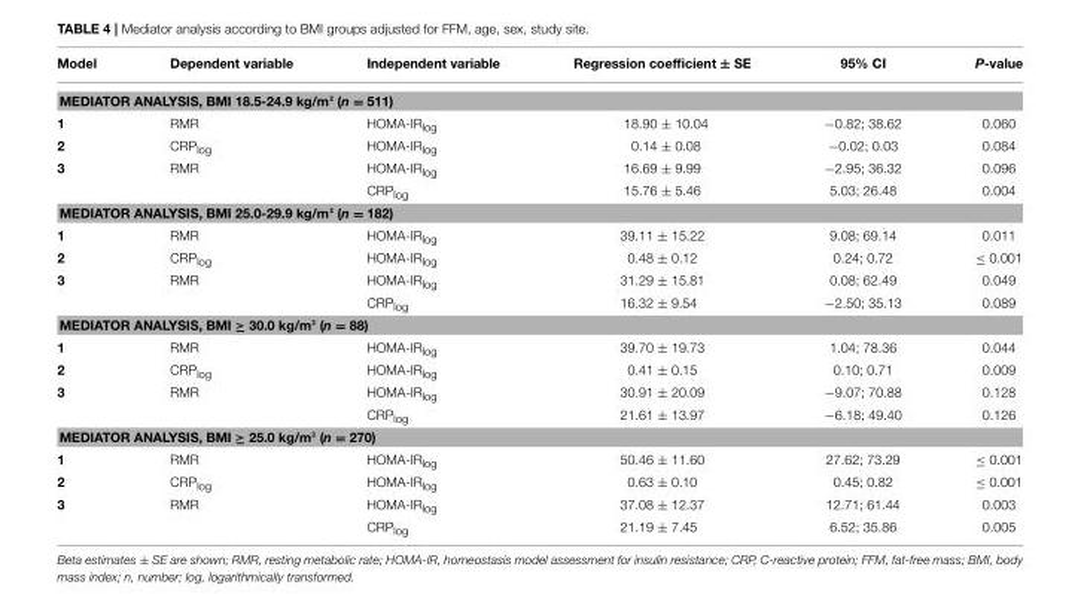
<table><thead><tr><td>Model</td><td>Dependent variable</td><td>Independent variable</td><td>Regression coefficient ± SE</td><td>95% CI</td><td>P-value</td></tr></thead><tbody><tr><td colspan="6">MEDIATOR ANALYSIS, BMI 18.5-24.9 kg/m² (n = 511)</td></tr><tr><td>1</td><td>RMR</td><td>HOMA-IR<sub>log</sub></td><td>18.90 ± 10.04</td><td>−0.82; 38.62</td><td>0.060</td></tr><tr><td>2</td><td>CRP<sub>log</sub></td><td>HOMA-IR<sub>log</sub></td><td>0.14 ± 0.08</td><td>−0.02; 0.03</td><td>0.084</td></tr><tr><td rowspan="2">3</td><td>RMR</td><td>HOMA-IR<sub>log</sub></td><td>16.69 ± 9.99</td><td>−2.95; 36.32</td><td>0.096</td></tr><tr><td></td><td>CRP<sub>log</sub></td><td>15.76 ± 5.46</td><td>5.03; 26.48</td><td>0.004</td></tr><tr><td colspan="6">MEDIATOR ANALYSIS, BMI 25.0-29.9 kg/m² (n = 182)</td></tr><tr><td>1</td><td>RMR</td><td>HOMA-IR<sub>log</sub></td><td>39.11 ± 15.22</td><td>9.08; 69.14</td><td>0.011</td></tr><tr><td>2</td><td>CRP<sub>log</sub></td><td>HOMA-IR<sub>log</sub></td><td>0.48 ± 0.12</td><td>0.24; 0.72</td><td>≤ 0.001</td></tr><tr><td rowspan="2">3</td><td>RMR</td><td>HOMA-IR<sub>log</sub></td><td>31.29 ± 15.81</td><td>0.08; 62.49</td><td>0.049</td></tr><tr><td></td><td>CRP<sub>log</sub></td><td>16.32 ± 9.54</td><td>−2.50; 35.13</td><td>0.089</td></tr><tr><td colspan="6">MEDIATOR ANALYSIS, BMI ≥ 30.0 kg/m² (n = 88)</td></tr><tr><td>1</td><td>RMR</td><td>HOMA-IR<sub>log</sub></td><td>39.70 ± 19.73</td><td>1.04; 78.36</td><td>0.044</td></tr><tr><td>2</td><td>CRP<sub>log</sub></td><td>HOMA-IR<sub>log</sub></td><td>0.41 ± 0.15</td><td>0.10; 0.71</td><td>0.009</td></tr><tr><td rowspan="2">3</td><td>RMR</td><td>HOMA-IR<sub>log</sub></td><td>30.91 ± 20.09</td><td>−9.07; 70.88</td><td>0.128</td></tr><tr><td></td><td>CRP<sub>log</sub></td><td>21.61 ± 13.97</td><td>−6.18; 49.40</td><td>0.126</td></tr><tr><td colspan="6">MEDIATOR ANALYSIS, BMI ≥ 25.0 kg/m² (n = 270)</td></tr><tr><td>1</td><td>RMR</td><td>HOMA-IR<sub>log</sub></td><td>50.46 ± 11.60</td><td>27.62; 73.29</td><td>≤ 0.001</td></tr><tr><td>2</td><td>CRP<sub>log</sub></td><td>HOMA-IR<sub>log</sub></td><td>0.63 ± 0.10</td><td>0.45; 0.82</td><td>≤ 0.001</td></tr><tr><td rowspan="2">3</td><td>RMR</td><td>HOMA-IR<sub>log</sub></td><td>37.08 ± 12.37</td><td>12.71; 61.44</td><td>0.003</td></tr><tr><td></td><td>CRP<sub>log</sub></td><td>21.19 ± 7.45</td><td>6.52; 35.86</td><td>0.005</td></tr></tbody></table>